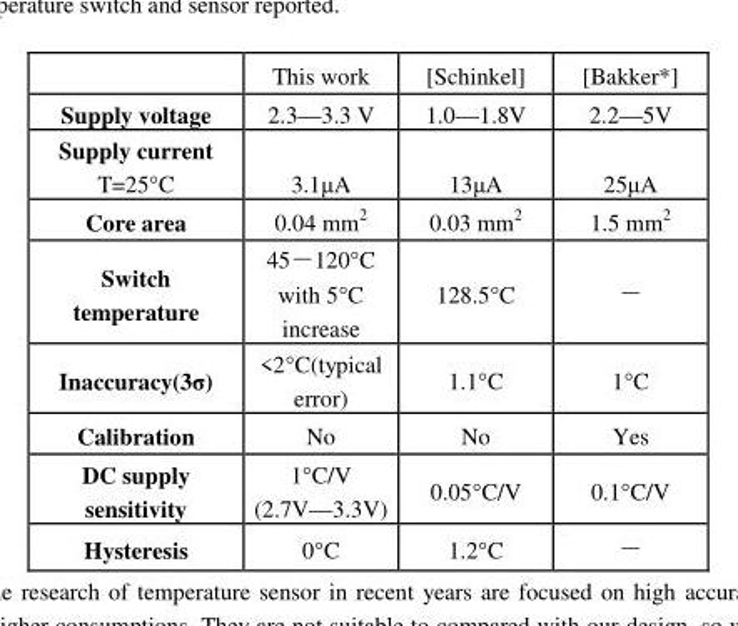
<table><thead><tr><td></td><td>This work</td><td>[Schinkel]</td><td>[Bakker*]</td></tr></thead><tbody><tr><td>Supply voltage</td><td>2.3—3.3 V</td><td>1.0—1.8V</td><td>2.2—5V</td></tr><tr><td>Supply current T=25°C</td><td>3.1µA</td><td>13µA</td><td>25µA</td></tr><tr><td>Core area</td><td>0.04 mm<sup>2</sup></td><td>0.03 mm<sup>2</sup></td><td>1.5 mm<sup>2</sup></td></tr><tr><td>Switch temperature</td><td>45－120°C with 5°C increase</td><td>128.5°C</td><td>－</td></tr><tr><td>Inaccuracy(3σ)</td><td>&lt;2°C(typical error)</td><td>1.1°C</td><td>1°C</td></tr><tr><td>Calibration</td><td>No</td><td>No</td><td>Yes</td></tr><tr><td>DC supply sensitivity</td><td>1°C/V (2.7V—3.3V)</td><td>0.05°C/V</td><td>0.1°C/V</td></tr><tr><td>Hysteresis</td><td>0°C</td><td>1.2°C</td><td>－</td></tr></tbody></table>